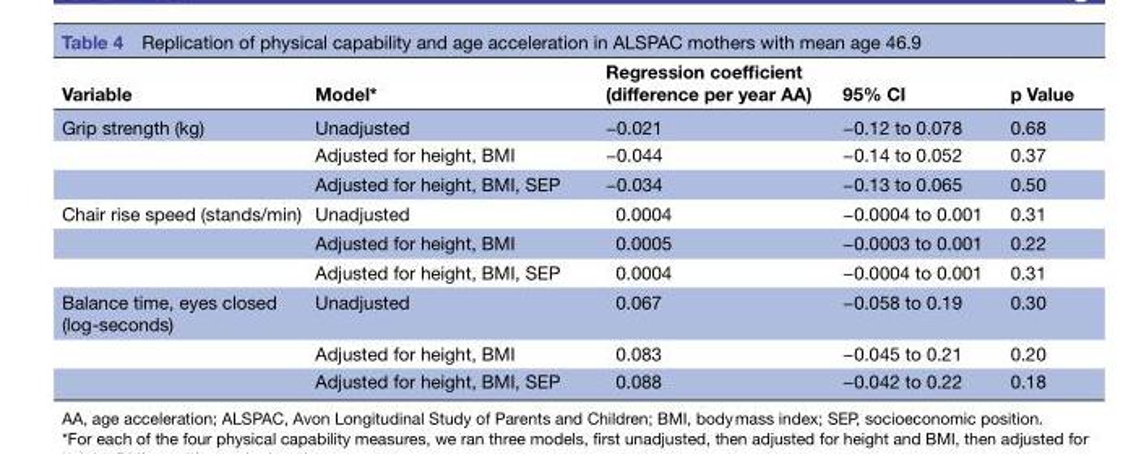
<table><thead><tr><td>Variable</td><td>Model*</td><td>Regression coefficient (difference per year AA)</td><td>95% CI</td><td>p Value</td></tr></thead><tbody><tr><td rowspan="3">Grip strength (kg)</td><td>Unadjusted</td><td>−0.021</td><td>−0.12 to 0.078</td><td>0.68</td></tr><tr><td>Adjusted for height, BMI</td><td>−0.044</td><td>−0.14 to 0.052</td><td>0.37</td></tr><tr><td>Adjusted for height, BMI, SEP</td><td>−0.034</td><td>−0.13 to 0.065</td><td>0.50</td></tr><tr><td rowspan="3">Chair rise speed (stands/min)</td><td>Unadjusted</td><td>0.0004</td><td>−0.0004 to 0.001</td><td>0.31</td></tr><tr><td>Adjusted for height, BMI</td><td>0.0005</td><td>−0.0003 to 0.001</td><td>0.22</td></tr><tr><td>Adjusted for height, BMI, SEP</td><td>0.0004</td><td>−0.0004 to 0.001</td><td>0.31</td></tr><tr><td rowspan="3">Balance time, eyes closed (log-seconds)</td><td>Unadjusted</td><td>0.067</td><td>−0.058 to 0.19</td><td>0.30</td></tr><tr><td>Adjusted for height, BMI</td><td>0.083</td><td>−0.045 to 0.21</td><td>0.20</td></tr><tr><td>Adjusted for height, BMI, SEP</td><td>0.088</td><td>−0.042 to 0.22</td><td>0.18</td></tr></tbody></table>